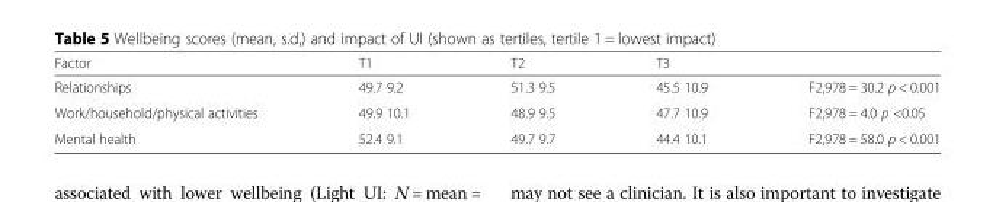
<table><thead><tr><td>Factor</td><td>T1</td><td>T2</td><td>T3</td><td></td></tr></thead><tbody><tr><td>Relationships</td><td>49.7 9.2</td><td>51.3 9.5</td><td>45.5 10.9</td><td>F2,978 = 30.2 p &lt; 0.001</td></tr><tr><td>Work/household/physical activities</td><td>49.9 10.1</td><td>48.9 9.5</td><td>47.7 10.9</td><td>F2,978 = 4.0 p &lt;0.05</td></tr><tr><td>Mental health</td><td>52.4 9.1</td><td>49.7 9.7</td><td>44.4 10.1</td><td>F2,978 = 58.0 p &lt; 0.001</td></tr></tbody></table>